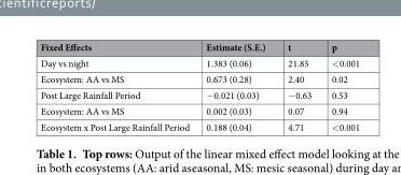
<table><thead><tr><td>Fixed Effects</td><td>Estimate (S.E.)</td><td>t</td><td>p</td></tr></thead><tbody><tr><td>Day vs night</td><td>1.383 (0.06)</td><td>21.85</td><td>&lt;0.001</td></tr><tr><td>Ecosystem: AA vs MS</td><td>0.673 (0.28)</td><td>2.40</td><td>0.02</td></tr><tr><td>Post Large Rainfall Period</td><td>−0.021 (0.03)</td><td>−0.63</td><td>0.53</td></tr><tr><td>Ecosystem: AA vs MS</td><td>0.002 (0.03)</td><td>0.07</td><td>0.94</td></tr><tr><td>Ecosystem x Post Large Rainfall Period</td><td>0.188 (0.04)</td><td>4.71</td><td>&lt;0.001</td></tr></tbody></table>